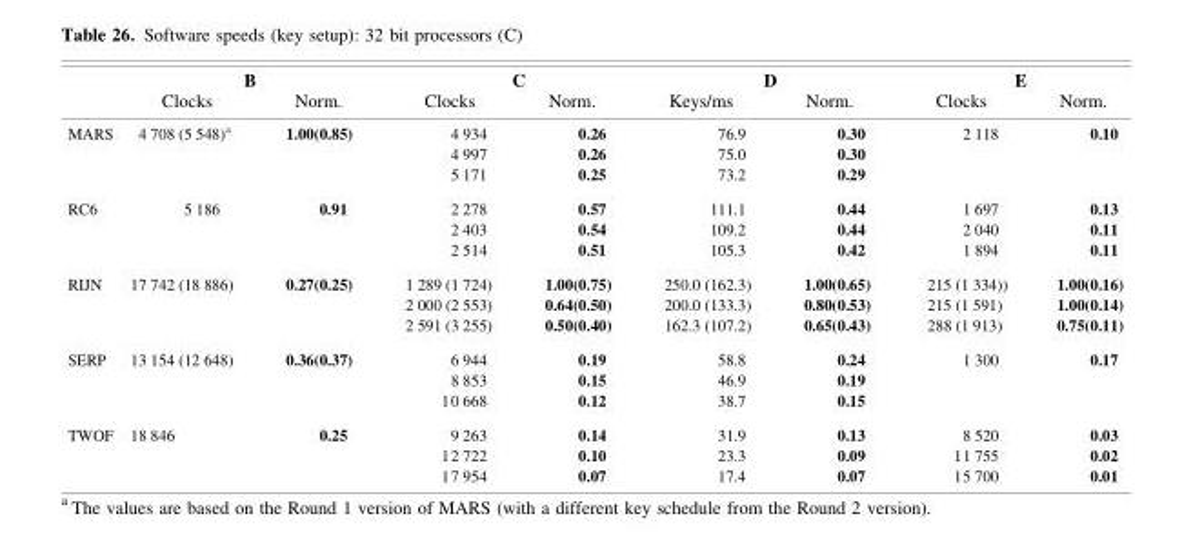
<table><thead><tr><td rowspan="2"></td><td colspan="2">B</td><td colspan="2">C</td><td colspan="2">D</td><td colspan="2">E</td></tr><tr><td>Clocks</td><td>Norm.</td><td>Clocks</td><td>Norm.</td><td>Keys/ms</td><td>Norm.</td><td>Clocks</td><td>Norm.</td></tr></thead><tbody><tr><td rowspan="3">MARS</td><td>4 708 (5 548)<sup>a</sup></td><td>1.00(0.85)</td><td>4 934</td><td>0.26</td><td>76.9</td><td>0.30</td><td>2 118</td><td>0.10</td></tr><tr><td></td><td></td><td>4 997</td><td>0.26</td><td>75.0</td><td>0.30</td><td></td><td></td></tr><tr><td></td><td></td><td>5 171</td><td>0.25</td><td>73.2</td><td>0.29</td><td></td><td></td></tr><tr><td rowspan="3">RC6</td><td>5 186</td><td>0.91</td><td>2 278</td><td>0.57</td><td>111.1</td><td>0.44</td><td>1 697</td><td>0.13</td></tr><tr><td></td><td></td><td>2 403</td><td>0.54</td><td>109.2</td><td>0.44</td><td>2 040</td><td>0.11</td></tr><tr><td></td><td></td><td>2 514</td><td>0.51</td><td>105.3</td><td>0.42</td><td>1 894</td><td>0.11</td></tr><tr><td rowspan="3">RIJN</td><td>17 742 (18 886)</td><td>0.27(0.25)</td><td>1 289 (1 724)</td><td>1.00(0.75)</td><td>250.0 (162.3)</td><td>1.00(0.65)</td><td>215 (1 334))</td><td>1.00(0.16)</td></tr><tr><td></td><td></td><td>2 000 (2 553)</td><td>0.64(0.50)</td><td>200.0 (133.3)</td><td>0.80(0.53)</td><td>215 (1 591)</td><td>1.00(0.14)</td></tr><tr><td></td><td></td><td>2 591 (3 255)</td><td>0.50(0.40)</td><td>162.3 (107.2)</td><td>0.65(0.43)</td><td>288 (1 913)</td><td>0.75(0.11)</td></tr><tr><td rowspan="3">SERP</td><td>13 154 (12 648)</td><td>0.36(0.37)</td><td>6 944</td><td>0.19</td><td>58.8</td><td>0.24</td><td>1 300</td><td>0.17</td></tr><tr><td></td><td></td><td>8 853</td><td>0.15</td><td>46.9</td><td>0.19</td><td></td><td></td></tr><tr><td></td><td></td><td>10 668</td><td>0.12</td><td>38.7</td><td>0.15</td><td></td><td></td></tr><tr><td rowspan="3">TWOF</td><td>18 846</td><td>0.25</td><td>9 263</td><td>0.14</td><td>31.9</td><td>0.13</td><td>8 520</td><td>0.03</td></tr><tr><td></td><td></td><td>12 722</td><td>0.10</td><td>23.3</td><td>0.09</td><td>11 755</td><td>0.02</td></tr><tr><td></td><td></td><td>17 954</td><td>0.07</td><td>17.4</td><td>0.07</td><td>15 700</td><td>0.01</td></tr></tbody></table>